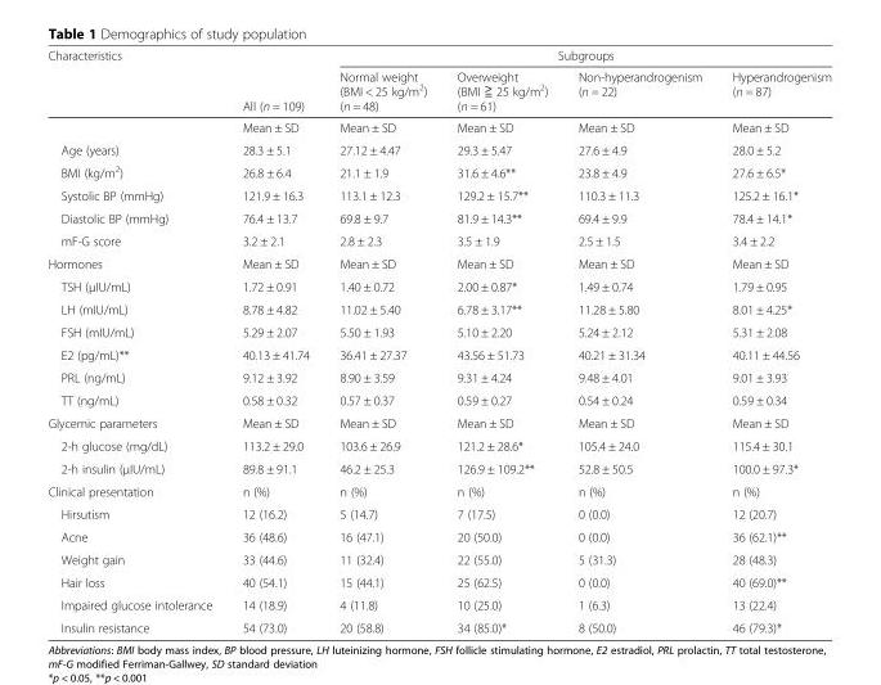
<table><thead><tr><td rowspan="2">Characteristics</td><td rowspan="2">All (n = 109)</td><td colspan="4">Subgroups</td></tr><tr><td>Normal weight (BMI &lt; 25 kg/m<sup>2</sup>) (n = 48)</td><td>Overweight (BMI ≧ 25 kg/m<sup>2</sup>) (n = 61)</td><td>Non-hyperandrogenism (n = 22)</td><td>Hyperandrogenism (n = 87)</td></tr></thead><tbody><tr><td></td><td>Mean ± SD</td><td>Mean ± SD</td><td>Mean ± SD</td><td>Mean ± SD</td><td>Mean ± SD</td></tr><tr><td>Age (years)</td><td>28.3 ± 5.1</td><td>27.12 ± 4.47</td><td>29.3 ± 5.47</td><td>27.6 ± 4.9</td><td>28.0 ± 5.2</td></tr><tr><td>BMI (kg/m<sup>2</sup>)</td><td>26.8 ± 6.4</td><td>21.1 ± 1.9</td><td>31.6 ± 4.6**</td><td>23.8 ± 4.9</td><td>27.6 ± 6.5*</td></tr><tr><td>Systolic BP (mmHg)</td><td>121.9 ± 16.3</td><td>113.1 ± 12.3</td><td>129.2 ± 15.7**</td><td>110.3 ± 11.3</td><td>125.2 ± 16.1*</td></tr><tr><td>Diastolic BP (mmHg)</td><td>76.4 ± 13.7</td><td>69.8 ± 9.7</td><td>81.9 ± 14.3**</td><td>69.4 ± 9.9</td><td>78.4 ± 14.1*</td></tr><tr><td>mF-G score</td><td>3.2 ± 2.1</td><td>2.8 ± 2.3</td><td>3.5 ± 1.9</td><td>2.5 ± 1.5</td><td>3.4 ± 2.2</td></tr><tr><td>Hormones</td><td>Mean ± SD</td><td>Mean ± SD</td><td>Mean ± SD</td><td>Mean ± SD</td><td>Mean ± SD</td></tr><tr><td>TSH (μIU/mL)</td><td>1.72 ± 0.91</td><td>1.40 ± 0.72</td><td>2.00 ± 0.87*</td><td>1.49 ± 0.74</td><td>1.79 ± 0.95</td></tr><tr><td>LH (mIU/mL)</td><td>8.78 ± 4.82</td><td>11.02 ± 5.40</td><td>6.78 ± 3.17**</td><td>11.28 ± 5.80</td><td>8.01 ± 4.25*</td></tr><tr><td>FSH (mIU/mL)</td><td>5.29 ± 2.07</td><td>5.50 ± 1.93</td><td>5.10 ± 2.20</td><td>5.24 ± 2.12</td><td>5.31 ± 2.08</td></tr><tr><td>E2 (pg/mL)**</td><td>40.13 ± 41.74</td><td>36.41 ± 27.37</td><td>43.56 ± 51.73</td><td>40.21 ± 31.34</td><td>40.11 ± 44.56</td></tr><tr><td>PRL (ng/mL)</td><td>9.12 ± 3.92</td><td>8.90 ± 3.59</td><td>9.31 ± 4.24</td><td>9.48 ± 4.01</td><td>9.01 ± 3.93</td></tr><tr><td>TT (ng/mL)</td><td>0.58 ± 0.32</td><td>0.57 ± 0.37</td><td>0.59 ± 0.27</td><td>0.54 ± 0.24</td><td>0.59 ± 0.34</td></tr><tr><td>Glycemic parameters</td><td>Mean ± SD</td><td>Mean ± SD</td><td>Mean ± SD</td><td>Mean ± SD</td><td>Mean ± SD</td></tr><tr><td>2-h glucose (mg/dL)</td><td>113.2 ± 29.0</td><td>103.6 ± 26.9</td><td>121.2 ± 28.6*</td><td>105.4 ± 24.0</td><td>115.4 ± 30.1</td></tr><tr><td>2-h insulin (μIU/mL)</td><td>89.8 ± 91.1</td><td>46.2 ± 25.3</td><td>126.9 ± 109.2**</td><td>52.8 ± 50.5</td><td>100.0 ± 97.3*</td></tr><tr><td>Clinical presentation</td><td>n (%)</td><td>n (%)</td><td>n (%)</td><td>n (%)</td><td>n (%)</td></tr><tr><td>Hirsutism</td><td>12 (16.2)</td><td>5 (14.7)</td><td>7 (17.5)</td><td>0 (0.0)</td><td>12 (20.7)</td></tr><tr><td>Acne</td><td>36 (48.6)</td><td>16 (47.1)</td><td>20 (50.0)</td><td>0 (0.0)</td><td>36 (62.1)**</td></tr><tr><td>Weight gain</td><td>33 (44.6)</td><td>11 (32.4)</td><td>22 (55.0)</td><td>5 (31.3)</td><td>28 (48.3)</td></tr><tr><td>Hair loss</td><td>40 (54.1)</td><td>15 (44.1)</td><td>25 (62.5)</td><td>0 (0.0)</td><td>40 (69.0)**</td></tr><tr><td>Impaired glucose intolerance</td><td>14 (18.9)</td><td>4 (11.8)</td><td>10 (25.0)</td><td>1 (6.3)</td><td>13 (22.4)</td></tr><tr><td>Insulin resistance</td><td>54 (73.0)</td><td>20 (58.8)</td><td>34 (85.0)*</td><td>8 (50.0)</td><td>46 (79.3)*</td></tr></tbody></table>